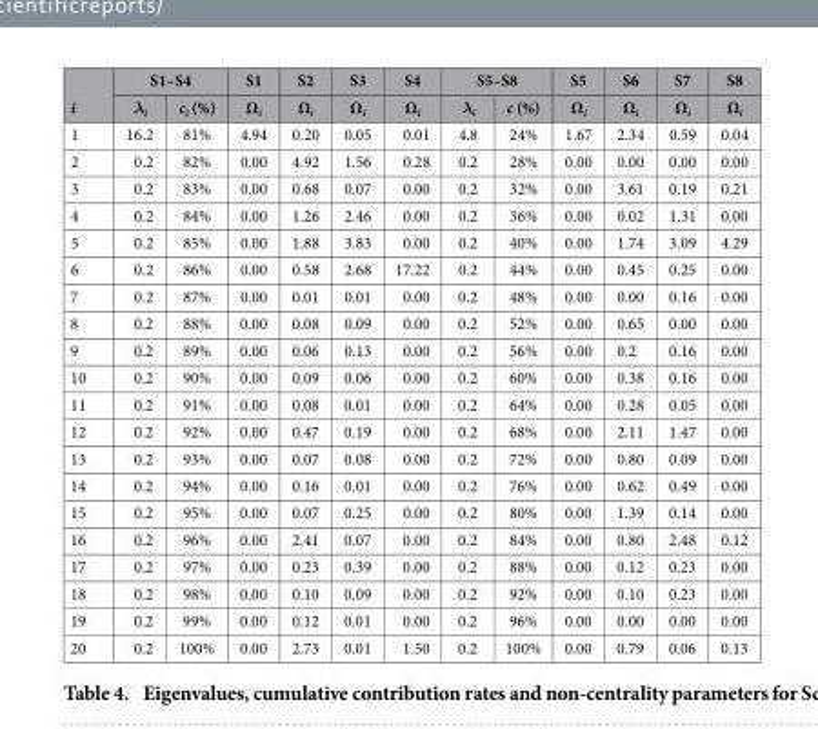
<table><thead><tr><td rowspan="2">i</td><td colspan="2">S1–S4</td><td rowspan="2">S1 Ω<sub>i</sub></td><td rowspan="2">S2 Ω<sub>i</sub></td><td rowspan="2">S3 Ω<sub>i</sub></td><td rowspan="2">S4 Ω<sub>i</sub></td><td colspan="2">S5–S8</td><td rowspan="2">S5 Ω<sub>i</sub></td><td rowspan="2">S6 Ω<sub>i</sub></td><td rowspan="2">S7 Ω<sub>i</sub></td><td rowspan="2">S8 Ω<sub>i</sub></td></tr><tr><td>λ<sub>i</sub></td><td>c<sub>i</sub> (%)</td><td>λ<sub>i</sub></td><td>c (%)</td></tr></thead><tbody><tr><td>1</td><td>16.2</td><td>81%</td><td>4.94</td><td>0.20</td><td>0.05</td><td>0.01</td><td>4.8</td><td>24%</td><td>1.67</td><td>2.34</td><td>0.59</td><td>0.04</td></tr><tr><td>2</td><td>0.2</td><td>82%</td><td>0.00</td><td>4.92</td><td>1.56</td><td>0.28</td><td>0.2</td><td>28%</td><td>0.00</td><td>0.00</td><td>0.00</td><td>0.00</td></tr><tr><td>3</td><td>0.2</td><td>83%</td><td>0.00</td><td>0.68</td><td>0.07</td><td>0.00</td><td>0.2</td><td>32%</td><td>0.00</td><td>3.61</td><td>0.19</td><td>0.21</td></tr><tr><td>4</td><td>0.2</td><td>84%</td><td>0.00</td><td>1.26</td><td>2.46</td><td>0.00</td><td>0.2</td><td>36%</td><td>0.00</td><td>0.02</td><td>1.31</td><td>0.00</td></tr><tr><td>5</td><td>0.2</td><td>85%</td><td>0.00</td><td>1.88</td><td>3.83</td><td>0.00</td><td>0.2</td><td>40%</td><td>0.00</td><td>1.74</td><td>3.09</td><td>4.29</td></tr><tr><td>6</td><td>0.2</td><td>86%</td><td>0.00</td><td>0.58</td><td>2.68</td><td>17.22</td><td>0.2</td><td>44%</td><td>0.00</td><td>0.45</td><td>0.25</td><td>0.00</td></tr><tr><td>7</td><td>0.2</td><td>87%</td><td>0.00</td><td>0.01</td><td>0.01</td><td>0.00</td><td>0.2</td><td>48%</td><td>0.00</td><td>0.00</td><td>0.16</td><td>0.00</td></tr><tr><td>8</td><td>0.2</td><td>88%</td><td>0.00</td><td>0.08</td><td>0.09</td><td>0.00</td><td>0.2</td><td>52%</td><td>0.00</td><td>0.65</td><td>0.00</td><td>0.00</td></tr><tr><td>9</td><td>0.2</td><td>89%</td><td>0.00</td><td>0.06</td><td>0.13</td><td>0.00</td><td>0.2</td><td>56%</td><td>0.00</td><td>0.2</td><td>0.16</td><td>0.00</td></tr><tr><td>10</td><td>0.2</td><td>90%</td><td>0.00</td><td>0.09</td><td>0.06</td><td>0.00</td><td>0.2</td><td>60%</td><td>0.00</td><td>0.38</td><td>0.16</td><td>0.00</td></tr><tr><td>11</td><td>0.2</td><td>91%</td><td>0.00</td><td>0.08</td><td>0.01</td><td>0.00</td><td>0.2</td><td>64%</td><td>0.00</td><td>0.28</td><td>0.05</td><td>0.00</td></tr><tr><td>12</td><td>0.2</td><td>92%</td><td>0.00</td><td>0.47</td><td>0.19</td><td>0.00</td><td>0.2</td><td>68%</td><td>0.00</td><td>2.11</td><td>1.47</td><td>0.00</td></tr><tr><td>13</td><td>0.2</td><td>93%</td><td>0.00</td><td>0.07</td><td>0.08</td><td>0.00</td><td>0.2</td><td>72%</td><td>0.00</td><td>0.80</td><td>0.09</td><td>0.00</td></tr><tr><td>14</td><td>0.2</td><td>94%</td><td>0.00</td><td>0.16</td><td>0.01</td><td>0.00</td><td>0.2</td><td>76%</td><td>0.00</td><td>0.62</td><td>0.49</td><td>0.00</td></tr><tr><td>15</td><td>0.2</td><td>95%</td><td>0.00</td><td>0.07</td><td>0.25</td><td>0.00</td><td>0.2</td><td>80%</td><td>0.00</td><td>1.39</td><td>0.14</td><td>0.00</td></tr><tr><td>16</td><td>0.2</td><td>96%</td><td>0.00</td><td>2.41</td><td>0.07</td><td>0.00</td><td>0.2</td><td>84%</td><td>0.00</td><td>0.80</td><td>2.48</td><td>0.12</td></tr><tr><td>17</td><td>0.2</td><td>97%</td><td>0.00</td><td>0.23</td><td>0.39</td><td>0.00</td><td>0.2</td><td>88%</td><td>0.00</td><td>0.12</td><td>0.23</td><td>0.00</td></tr><tr><td>18</td><td>0.2</td><td>98%</td><td>0.00</td><td>0.10</td><td>0.09</td><td>0.00</td><td>0.2</td><td>92%</td><td>0.00</td><td>0.10</td><td>0.23</td><td>0.00</td></tr><tr><td>19</td><td>0.2</td><td>99%</td><td>0.00</td><td>0.12</td><td>0.01</td><td>0.00</td><td>0.2</td><td>96%</td><td>0.00</td><td>0.00</td><td>0.00</td><td>0.00</td></tr><tr><td>20</td><td>0.2</td><td>100%</td><td>0.00</td><td>2.73</td><td>0.01</td><td>1.50</td><td>0.2</td><td>100%</td><td>0.00</td><td>0.79</td><td>0.06</td><td>0.13</td></tr></tbody></table>